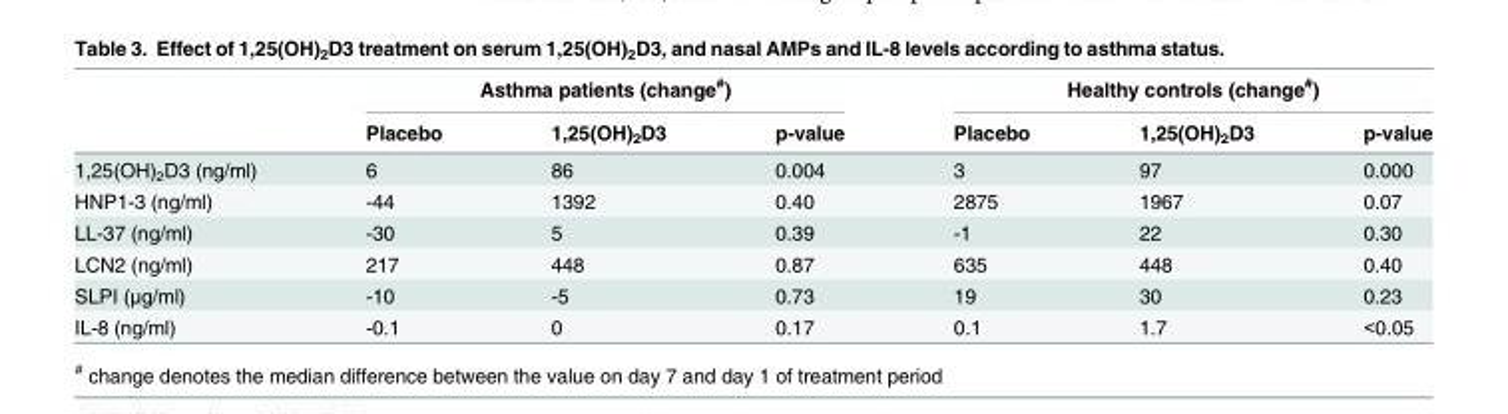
<table><thead><tr><td rowspan="2"></td><td colspan="3">Asthma patients (change<sup>#</sup>)</td><td colspan="3">Healthy controls (change<sup>#</sup>)</td></tr><tr><td>Placebo</td><td>1,25(OH)<sub>2</sub>D3</td><td>p-value</td><td>Placebo</td><td>1,25(OH)<sub>2</sub>D3</td><td>p-value</td></tr></thead><tbody><tr><td>1,25(OH)<sub>2</sub>D3 (ng/ml)</td><td>6</td><td>86</td><td>0.004</td><td>3</td><td>97</td><td>0.000</td></tr><tr><td>HNP1-3 (ng/ml)</td><td>-44</td><td>1392</td><td>0.40</td><td>2875</td><td>1967</td><td>0.07</td></tr><tr><td>LL-37 (ng/ml)</td><td>-30</td><td>5</td><td>0.39</td><td>-1</td><td>22</td><td>0.30</td></tr><tr><td>LCN2 (ng/ml)</td><td>217</td><td>448</td><td>0.87</td><td>635</td><td>448</td><td>0.40</td></tr><tr><td>SLPI (μg/ml)</td><td>-10</td><td>-5</td><td>0.73</td><td>19</td><td>30</td><td>0.23</td></tr><tr><td>IL-8 (ng/ml)</td><td>-0.1</td><td>0</td><td>0.17</td><td>0.1</td><td>1.7</td><td>&lt;0.05</td></tr></tbody></table>